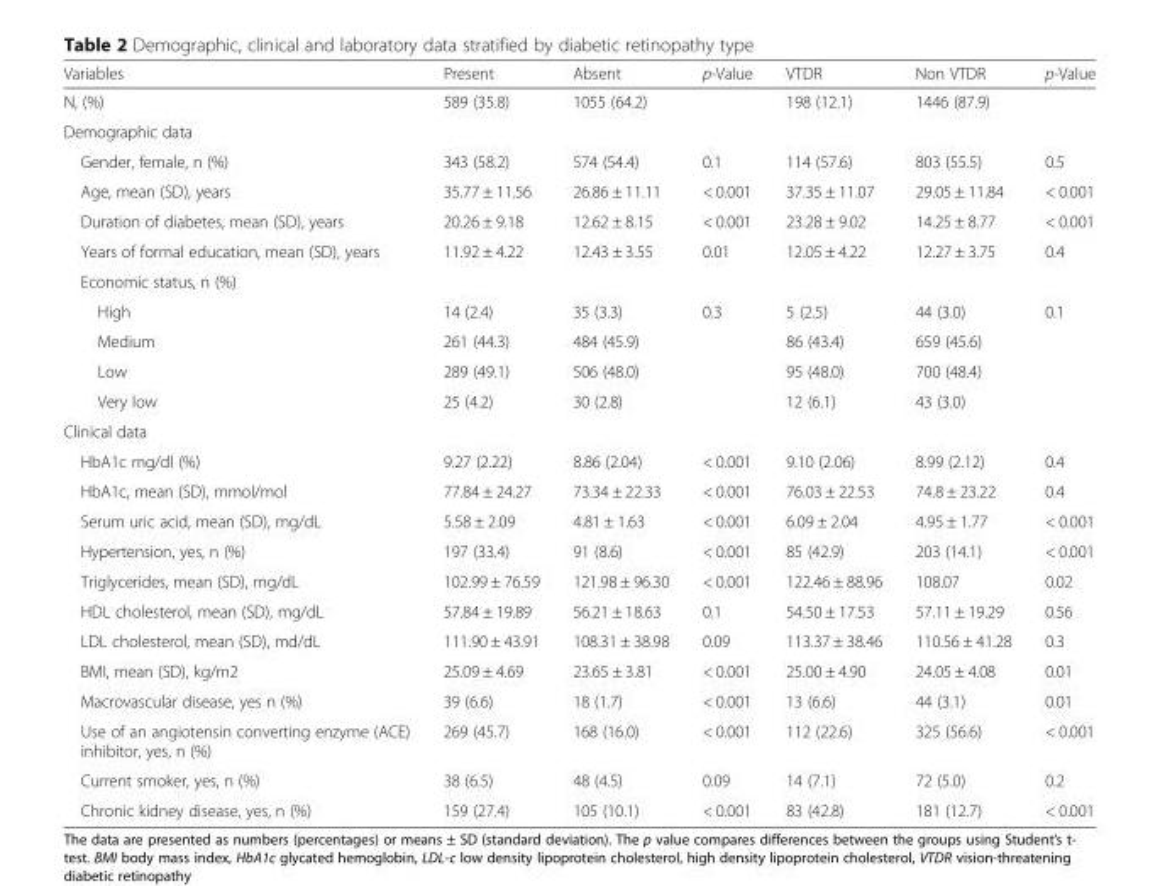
<table><thead><tr><td>Variables</td><td>Present</td><td>Absent</td><td>p-Value</td><td>VTDR</td><td>Non VTDR</td><td>p-Value</td></tr></thead><tbody><tr><td>N, (%)</td><td>589 (35.8)</td><td>1055 (64.2)</td><td></td><td>198 (12.1)</td><td>1446 (87.9)</td><td></td></tr><tr><td colspan="7">Demographic data</td></tr><tr><td>Gender, female, n (%)</td><td>343 (58.2)</td><td>574 (54.4)</td><td>0.1</td><td>114 (57.6)</td><td>803 (55.5)</td><td>0.5</td></tr><tr><td>Age, mean (SD), years</td><td>35.77 ± 11.56</td><td>26.86 ± 11.11</td><td>&lt; 0.001</td><td>37.35 ± 11.07</td><td>29.05 ± 11.84</td><td>&lt; 0.001</td></tr><tr><td>Duration of diabetes, mean (SD), years</td><td>20.26 ± 9.18</td><td>12.62 ± 8.15</td><td>&lt; 0.001</td><td>23.28 ± 9.02</td><td>14.25 ± 8.77</td><td>&lt; 0.001</td></tr><tr><td>Years of formal education, mean (SD), years</td><td>11.92 ± 4.22</td><td>12.43 ± 3.55</td><td>0.01</td><td>12.05 ± 4.22</td><td>12.27 ± 3.75</td><td>0.4</td></tr><tr><td colspan="7">Economic status, n (%)</td></tr><tr><td>High</td><td>14 (2.4)</td><td>35 (3.3)</td><td rowspan="4">0.3</td><td>5 (2.5)</td><td>44 (3.0)</td><td rowspan="4">0.1</td></tr><tr><td>Medium</td><td>261 (44.3)</td><td>484 (45.9)</td><td>86 (43.4)</td><td>659 (45.6)</td></tr><tr><td>Low</td><td>289 (49.1)</td><td>506 (48.0)</td><td>95 (48.0)</td><td>700 (48.4)</td></tr><tr><td>Very low</td><td>25 (4.2)</td><td>30 (2.8)</td><td>12 (6.1)</td><td>43 (3.0)</td></tr><tr><td colspan="7">Clinical data</td></tr><tr><td>HbA1c mg/dl (%)</td><td>9.27 (2.22)</td><td>8.86 (2.04)</td><td>&lt; 0.001</td><td>9.10 (2.06)</td><td>8.99 (2.12)</td><td>0.4</td></tr><tr><td>HbA1c, mean (SD), mmol/mol</td><td>77.84 ± 24.27</td><td>73.34 ± 22.33</td><td>&lt; 0.001</td><td>76.03 ± 22.53</td><td>74.8 ± 23.22</td><td>0.4</td></tr><tr><td>Serum uric acid, mean (SD), mg/dL</td><td>5.58 ± 2.09</td><td>4.81 ± 1.63</td><td>&lt; 0.001</td><td>6.09 ± 2.04</td><td>4.95 ± 1.77</td><td>&lt; 0.001</td></tr><tr><td>Hypertension, yes, n (%)</td><td>197 (33.4)</td><td>91 (8.6)</td><td>&lt; 0.001</td><td>85 (42.9)</td><td>203 (14.1)</td><td>&lt; 0.001</td></tr><tr><td>Triglycerides, mean (SD), mg/dL</td><td>102.99 ± 76.59</td><td>121.98 ± 96.30</td><td>&lt; 0.001</td><td>122.46 ± 88.96</td><td>108.07</td><td>0.02</td></tr><tr><td>HDL cholesterol, mean (SD), mg/dL</td><td>57.84 ± 19.89</td><td>56.21 ± 18.63</td><td>0.1</td><td>54.50 ± 17.53</td><td>57.11 ± 19.29</td><td>0.56</td></tr><tr><td>LDL cholesterol, mean (SD), md/dL</td><td>111.90 ± 43.91</td><td>108.31 ± 38.98</td><td>0.09</td><td>113.37 ± 38.46</td><td>110.56 ± 41.28</td><td>0.3</td></tr><tr><td>BMI, mean (SD), kg/m2</td><td>25.09 ± 4.69</td><td>23.65 ± 3.81</td><td>&lt; 0.001</td><td>25.00 ± 4.90</td><td>24.05 ± 4.08</td><td>0.01</td></tr><tr><td>Macrovascular disease, yes n (%)</td><td>39 (6.6)</td><td>18 (1.7)</td><td>&lt; 0.001</td><td>13 (6.6)</td><td>44 (3.1)</td><td>0.01</td></tr><tr><td>Use of an angiotensin converting enzyme (ACE) inhibitor, yes, n (%)</td><td>269 (45.7)</td><td>168 (16.0)</td><td>&lt; 0.001</td><td>112 (22.6)</td><td>325 (56.6)</td><td>&lt; 0.001</td></tr><tr><td>Current smoker, yes, n (%)</td><td>38 (6.5)</td><td>48 (4.5)</td><td>0.09</td><td>14 (7.1)</td><td>72 (5.0)</td><td>0.2</td></tr><tr><td>Chronic kidney disease, yes, n (%)</td><td>159 (27.4)</td><td>105 (10.1)</td><td>&lt; 0.001</td><td>83 (42.8)</td><td>181 (12.7)</td><td>&lt; 0.001</td></tr></tbody></table>